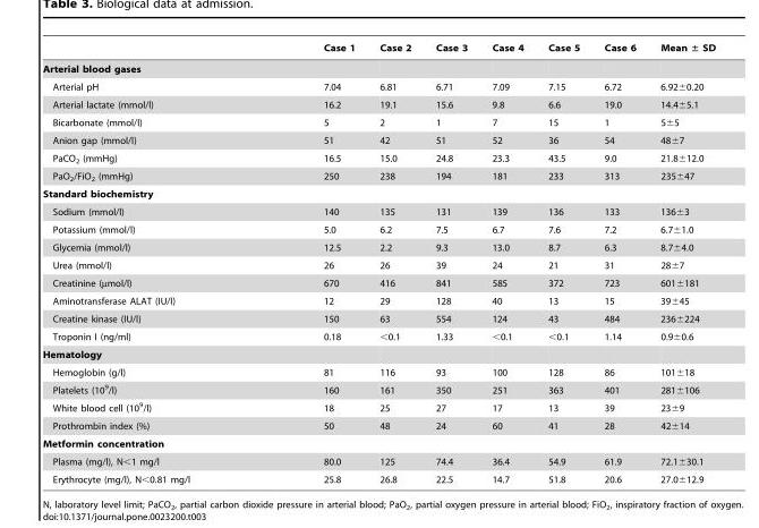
<table><thead><tr><td></td><td>Case 1</td><td>Case 2</td><td>Case 3</td><td>Case 4</td><td>Case 5</td><td>Case 6</td><td>Mean ± SD</td></tr></thead><tbody><tr><td colspan="8">Arterial blood gases</td></tr><tr><td>Arterial pH</td><td>7.04</td><td>6.81</td><td>6.71</td><td>7.09</td><td>7.15</td><td>6.72</td><td>6.92±0.20</td></tr><tr><td>Arterial lactate (mmol/l)</td><td>16.2</td><td>19.1</td><td>15.6</td><td>9.8</td><td>6.6</td><td>19.0</td><td>14.4±5.1</td></tr><tr><td>Bicarbonate (mmol/l)</td><td>5</td><td>2</td><td>1</td><td>7</td><td>15</td><td>1</td><td>5±5</td></tr><tr><td>Anion gap (mmol/l)</td><td>51</td><td>42</td><td>51</td><td>52</td><td>36</td><td>54</td><td>48±7</td></tr><tr><td>PaCO<sub>2</sub> (mmHg)</td><td>16.5</td><td>15.0</td><td>24.8</td><td>23.3</td><td>43.5</td><td>9.0</td><td>21.8±12.0</td></tr><tr><td>PaO<sub>2</sub>/FiO<sub>2</sub> (mmHg)</td><td>250</td><td>238</td><td>194</td><td>181</td><td>233</td><td>313</td><td>235±47</td></tr><tr><td colspan="8">Standard biochemistry</td></tr><tr><td>Sodium (mmol/l)</td><td>140</td><td>135</td><td>131</td><td>139</td><td>136</td><td>133</td><td>136±3</td></tr><tr><td>Potassium (mmol/l)</td><td>5.0</td><td>6.2</td><td>7.5</td><td>6.7</td><td>7.6</td><td>7.2</td><td>6.7±1.0</td></tr><tr><td>Glycemia (mmol/l)</td><td>12.5</td><td>2.2</td><td>9.3</td><td>13.0</td><td>8.7</td><td>6.3</td><td>8.7±4.0</td></tr><tr><td>Urea (mmol/l)</td><td>26</td><td>26</td><td>39</td><td>24</td><td>21</td><td>31</td><td>28±7</td></tr><tr><td>Creatinine (µmol/l)</td><td>670</td><td>416</td><td>841</td><td>585</td><td>372</td><td>723</td><td>601±181</td></tr><tr><td>Aminotransferase ALAT (IU/l)</td><td>12</td><td>29</td><td>128</td><td>40</td><td>13</td><td>15</td><td>39±45</td></tr><tr><td>Creatine kinase (IU/l)</td><td>150</td><td>63</td><td>554</td><td>124</td><td>43</td><td>484</td><td>236±224</td></tr><tr><td>Troponin I (ng/ml)</td><td>0.18</td><td>&lt;0.1</td><td>1.33</td><td>&lt;0.1</td><td>&lt;0.1</td><td>1.14</td><td>0.9±0.6</td></tr><tr><td colspan="8">Hematology</td></tr><tr><td>Hemoglobin (g/l)</td><td>81</td><td>116</td><td>93</td><td>100</td><td>128</td><td>86</td><td>101±18</td></tr><tr><td>Platelets (10<sup>9</sup>/l)</td><td>160</td><td>161</td><td>350</td><td>251</td><td>363</td><td>401</td><td>281±106</td></tr><tr><td>White blood cell (10<sup>9</sup>/l)</td><td>18</td><td>25</td><td>27</td><td>17</td><td>13</td><td>39</td><td>23±9</td></tr><tr><td>Prothrombin index (%)</td><td>50</td><td>48</td><td>24</td><td>60</td><td>41</td><td>28</td><td>42±14</td></tr><tr><td colspan="8">Metformin concentration</td></tr><tr><td>Plasma (mg/l), N&lt;1 mg/l</td><td>80.0</td><td>125</td><td>74.4</td><td>36.4</td><td>54.9</td><td>61.9</td><td>72.1±30.1</td></tr><tr><td>Erythrocyte (mg/l), N&lt;0.81 mg/l</td><td>25.8</td><td>26.8</td><td>22.5</td><td>14.7</td><td>51.8</td><td>20.6</td><td>27.0±12.9</td></tr></tbody></table>